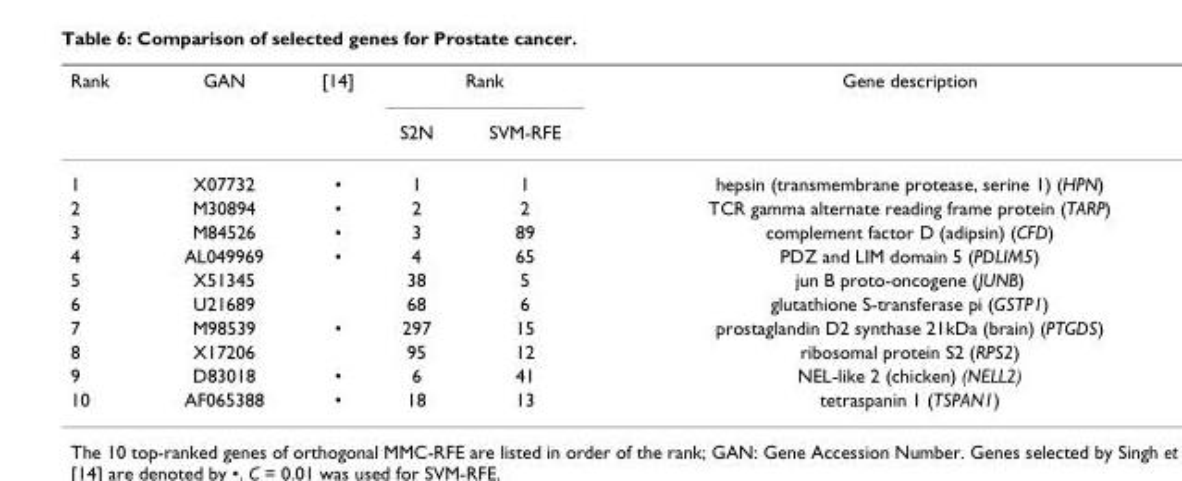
<table><thead><tr><td rowspan="2">Rank</td><td rowspan="2">GAN</td><td rowspan="2">[14]</td><td colspan="2">Rank</td><td rowspan="2">Gene description</td></tr><tr><td>S2N</td><td>SVM-RFE</td></tr></thead><tbody><tr><td>1</td><td>X07732</td><td>•</td><td>1</td><td>1</td><td>hepsin (transmembrane protease, serine 1) (HPN)</td></tr><tr><td>2</td><td>M30894</td><td>•</td><td>2</td><td>2</td><td>TCR gamma alternate reading frame protein (TARP)</td></tr><tr><td>3</td><td>M84526</td><td>•</td><td>3</td><td>89</td><td>complement factor D (adipsin) (CFD)</td></tr><tr><td>4</td><td>AL049969</td><td>•</td><td>4</td><td>65</td><td>PDZ and LIM domain 5 (PDLIM5)</td></tr><tr><td>5</td><td>X51345</td><td></td><td>38</td><td>5</td><td>jun B proto-oncogene (JUNB)</td></tr><tr><td>6</td><td>U21689</td><td></td><td>68</td><td>6</td><td>glutathione S-transferase pi (GSTP1)</td></tr><tr><td>7</td><td>M98539</td><td>•</td><td>297</td><td>15</td><td>prostaglandin D2 synthase 21kDa (brain) (PTGDS)</td></tr><tr><td>8</td><td>X17206</td><td></td><td>95</td><td>12</td><td>ribosomal protein S2 (RPS2)</td></tr><tr><td>9</td><td>D83018</td><td>•</td><td>6</td><td>41</td><td>NEL-like 2 (chicken) (NELL2)</td></tr><tr><td>10</td><td>AF065388</td><td>•</td><td>18</td><td>13</td><td>tetraspanin 1 (TSPAN1)</td></tr></tbody></table>